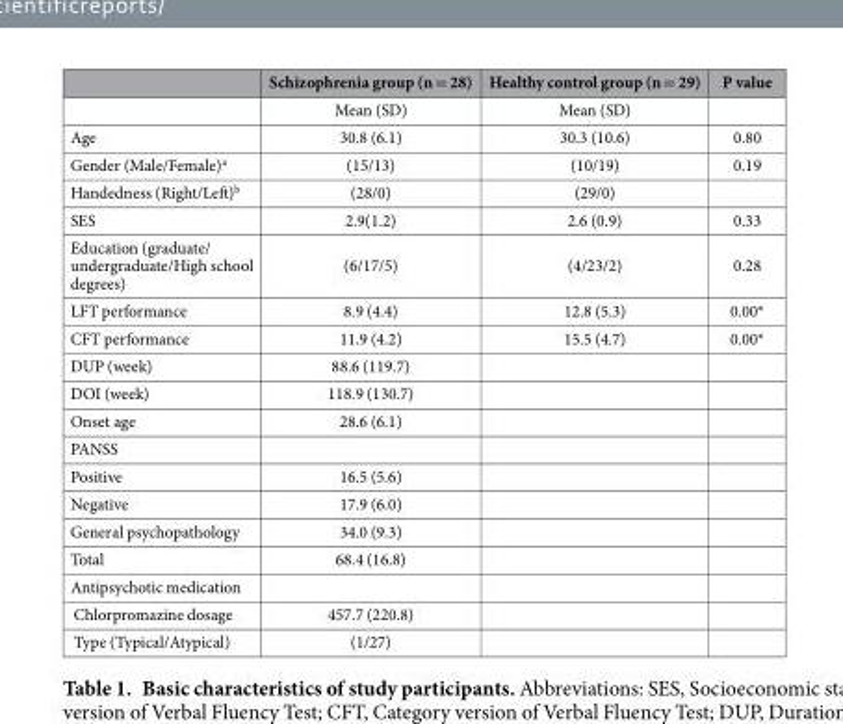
<table><thead><tr><td></td><td>Schizophrenia group (n = 28)</td><td>Healthy control group (n = 29)</td><td>P value</td></tr></thead><tbody><tr><td></td><td>Mean (SD)</td><td>Mean (SD)</td><td></td></tr><tr><td>Age</td><td>30.8 (6.1)</td><td>30.3 (10.6)</td><td>0.80</td></tr><tr><td>Gender (Male/Female)<sup>a</sup></td><td>(15/13)</td><td>(10/19)</td><td>0.19</td></tr><tr><td>Handedness (Right/Left)<sup>b</sup></td><td>(28/0)</td><td>(29/0)</td><td></td></tr><tr><td>SES</td><td>2.9(1.2)</td><td>2.6 (0.9)</td><td>0.33</td></tr><tr><td>Education (graduate/ undergraduate/High school degrees)</td><td>(6/17/5)</td><td>(4/23/2)</td><td>0.28</td></tr><tr><td>LFT performance</td><td>8.9 (4.4)</td><td>12.8 (5.3)</td><td>0.00*</td></tr><tr><td>CFT performance</td><td>11.9 (4.2)</td><td>15.5 (4.7)</td><td>0.00*</td></tr><tr><td>DUP (week)</td><td>88.6 (119.7)</td><td></td><td></td></tr><tr><td>DOI (week)</td><td>118.9 (130.7)</td><td></td><td></td></tr><tr><td>Onset age</td><td>28.6 (6.1)</td><td></td><td></td></tr><tr><td colspan="4">PANSS</td></tr><tr><td>Positive</td><td>16.5 (5.6)</td><td></td><td></td></tr><tr><td>Negative</td><td>17.9 (6.0)</td><td></td><td></td></tr><tr><td>General psychopathology</td><td>34.0 (9.3)</td><td></td><td></td></tr><tr><td>Total</td><td>68.4 (16.8)</td><td></td><td></td></tr><tr><td colspan="4">Antipsychotic medication</td></tr><tr><td>Chlorpromazine dosage</td><td>457.7 (220.8)</td><td></td><td></td></tr><tr><td>Type (Typical/Atypical)</td><td>(1/27)</td><td></td><td></td></tr></tbody></table>